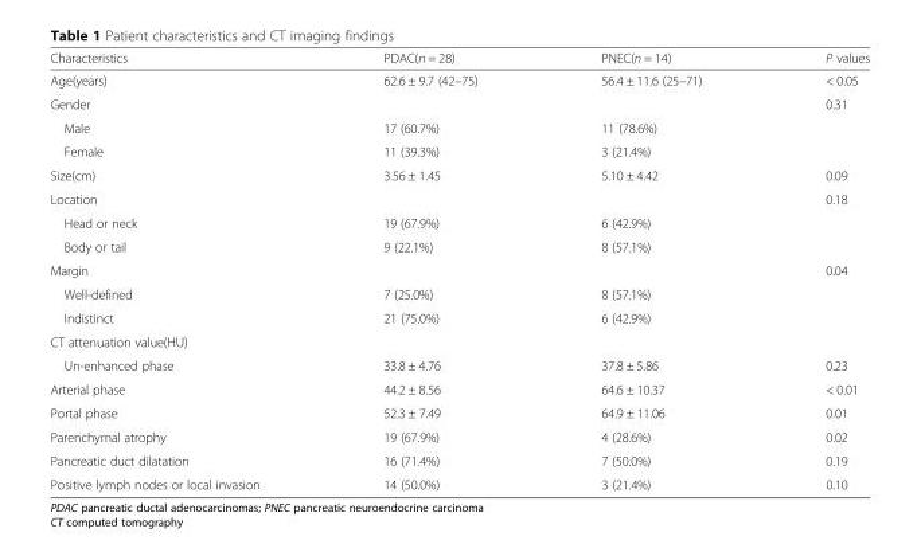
<table><thead><tr><td>Characteristics</td><td>PDAC(n = 28)</td><td>PNEC(n = 14)</td><td>P values</td></tr></thead><tbody><tr><td>Age(years)</td><td>62.6 ± 9.7 (42–75)</td><td>56.4 ± 11.6 (25–71)</td><td>&lt; 0.05</td></tr><tr><td>Gender</td><td></td><td></td><td>0.31</td></tr><tr><td>Male</td><td>17 (60.7%)</td><td>11 (78.6%)</td><td></td></tr><tr><td>Female</td><td>11 (39.3%)</td><td>3 (21.4%)</td><td></td></tr><tr><td>Size(cm)</td><td>3.56 ± 1.45</td><td>5.10 ± 4.42</td><td>0.09</td></tr><tr><td>Location</td><td></td><td></td><td>0.18</td></tr><tr><td>Head or neck</td><td>19 (67.9%)</td><td>6 (42.9%)</td><td></td></tr><tr><td>Body or tail</td><td>9 (22.1%)</td><td>8 (57.1%)</td><td></td></tr><tr><td>Margin</td><td></td><td></td><td>0.04</td></tr><tr><td>Well-defined</td><td>7 (25.0%)</td><td>8 (57.1%)</td><td></td></tr><tr><td>Indistinct</td><td>21 (75.0%)</td><td>6 (42.9%)</td><td></td></tr><tr><td colspan="4">CT attenuation value(HU)</td></tr><tr><td>Un-enhanced phase</td><td>33.8 ± 4.76</td><td>37.8 ± 5.86</td><td>0.23</td></tr><tr><td>Arterial phase</td><td>44.2 ± 8.56</td><td>64.6 ± 10.37</td><td>&lt; 0.01</td></tr><tr><td>Portal phase</td><td>52.3 ± 7.49</td><td>64.9 ± 11.06</td><td>0.01</td></tr><tr><td>Parenchymal atrophy</td><td>19 (67.9%)</td><td>4 (28.6%)</td><td>0.02</td></tr><tr><td>Pancreatic duct dilatation</td><td>16 (71.4%)</td><td>7 (50.0%)</td><td>0.19</td></tr><tr><td>Positive lymph nodes or local invasion</td><td>14 (50.0%)</td><td>3 (21.4%)</td><td>0.10</td></tr></tbody></table>